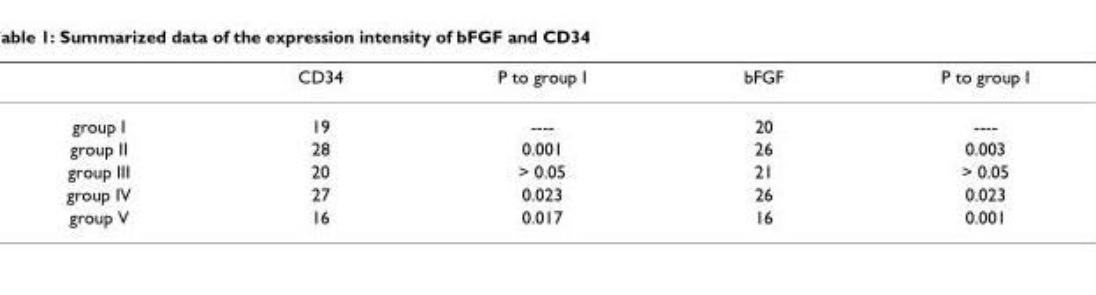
<table><thead><tr><td></td><td>CD34</td><td>P to group I</td><td>bFGF</td><td>P to group I</td></tr></thead><tbody><tr><td>group I</td><td>19</td><td>----</td><td>20</td><td>----</td></tr><tr><td>group II</td><td>28</td><td>0.001</td><td>26</td><td>0.003</td></tr><tr><td>group III</td><td>20</td><td>&gt; 0.05</td><td>21</td><td>&gt; 0.05</td></tr><tr><td>group IV</td><td>27</td><td>0.023</td><td>26</td><td>0.023</td></tr><tr><td>group V</td><td>16</td><td>0.017</td><td>16</td><td>0.001</td></tr></tbody></table>